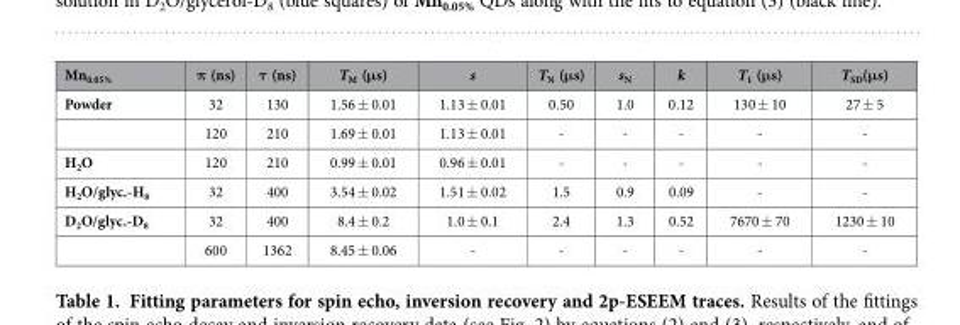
<table><thead><tr><td>Mn<sub>0.05%</sub></td><td>π (ns)</td><td>τ (ns)</td><td>T<sub>M</sub> (μs)</td><td>s</td><td>T<sub>N</sub> (μs)</td><td>s<sub>N</sub></td><td>k</td><td>T<sub>1</sub> (μs)</td><td>T<sub>SD</sub>(μs)</td></tr></thead><tbody><tr><td rowspan="2">Powder</td><td>32</td><td>130</td><td>1.56 ± 0.01</td><td>1.13 ± 0.01</td><td>0.50</td><td>1.0</td><td>0.12</td><td>130 ± 10</td><td>27 ± 5</td></tr><tr><td>120</td><td>210</td><td>1.69 ± 0.01</td><td>1.13 ± 0.01</td><td>-</td><td>-</td><td>-</td><td>-</td><td>-</td></tr><tr><td>H<sub>2</sub>O</td><td>120</td><td>210</td><td>0.99 ± 0.01</td><td>0.96 ± 0.01</td><td>-</td><td>-</td><td>-</td><td>-</td><td>-</td></tr><tr><td>H<sub>2</sub>O/glyc.-H<sub>8</sub></td><td>32</td><td>400</td><td>3.54 ± 0.02</td><td>1.51 ± 0.02</td><td>1.5</td><td>0.9</td><td>0.09</td><td>-</td><td>-</td></tr><tr><td rowspan="2">D<sub>2</sub>O/glyc.-D<sub>8</sub></td><td>32</td><td>400</td><td>8.4 ± 0.2</td><td>1.0 ± 0.1</td><td>2.4</td><td>1.3</td><td>0.52</td><td>7670 ± 70</td><td>1230 ± 10</td></tr><tr><td>600</td><td>1362</td><td>8.45 ± 0.06</td><td>-</td><td>-</td><td>-</td><td>-</td><td>-</td><td>-</td></tr></tbody></table>